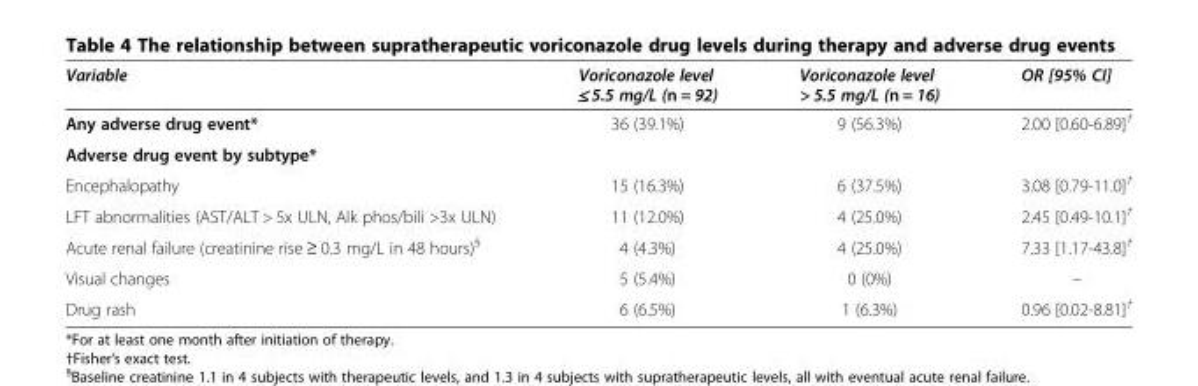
<table><thead><tr><td>Variable</td><td>Voriconazole level ≤ 5.5 mg/L (n = 92)</td><td>Voriconazole level &gt; 5.5 mg/L (n = 16)</td><td>OR [95% CI]</td></tr></thead><tbody><tr><td>Any adverse drug event*</td><td>36 (39.1%)</td><td>9 (56.3%)</td><td>2.00 [0.60-6.89]<sup>†</sup></td></tr><tr><td colspan="4">Adverse drug event by subtype*</td></tr><tr><td>Encephalopathy</td><td>15 (16.3%)</td><td>6 (37.5%)</td><td>3.08 [0.79-11.0]<sup>†</sup></td></tr><tr><td>LFT abnormalities (AST/ALT &gt; 5x ULN, Alk phos/bili &gt;3x ULN)</td><td>11 (12.0%)</td><td>4 (25.0%)</td><td>2.45 [0.49-10.1]<sup>†</sup></td></tr><tr><td>Acute renal failure (creatinine rise ≥ 0.3 mg/L in 48 hours)<sup>§</sup></td><td>4 (4.3%)</td><td>4 (25.0%)</td><td>7.33 [1.17-43.8]<sup>†</sup></td></tr><tr><td>Visual changes</td><td>5 (5.4%)</td><td>0 (0%)</td><td>–</td></tr><tr><td>Drug rash</td><td>6 (6.5%)</td><td>1 (6.3%)</td><td>0.96 [0.02-8.81]<sup>†</sup></td></tr></tbody></table>